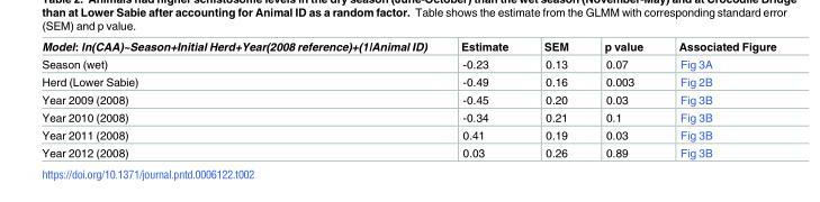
<table><thead><tr><td>Model: ln(CAA)~Season+Initial Herd+Year(2008 reference)+(1|Animal ID)</td><td>Estimate</td><td>SEM</td><td>p value</td><td>Associated Figure</td></tr></thead><tbody><tr><td>Season (wet)</td><td>-0.23</td><td>0.13</td><td>0.07</td><td>Fig 3A</td></tr><tr><td>Herd (Lower Sabie)</td><td>-0.49</td><td>0.16</td><td>0.003</td><td>Fig 2B</td></tr><tr><td>Year 2009 (2008)</td><td>-0.45</td><td>0.20</td><td>0.03</td><td>Fig 3B</td></tr><tr><td>Year 2010 (2008)</td><td>-0.34</td><td>0.21</td><td>0.1</td><td>Fig 3B</td></tr><tr><td>Year 2011 (2008)</td><td>0.41</td><td>0.19</td><td>0.03</td><td>Fig 3B</td></tr><tr><td>Year 2012 (2008)</td><td>0.03</td><td>0.26</td><td>0.89</td><td>Fig 3B</td></tr></tbody></table>